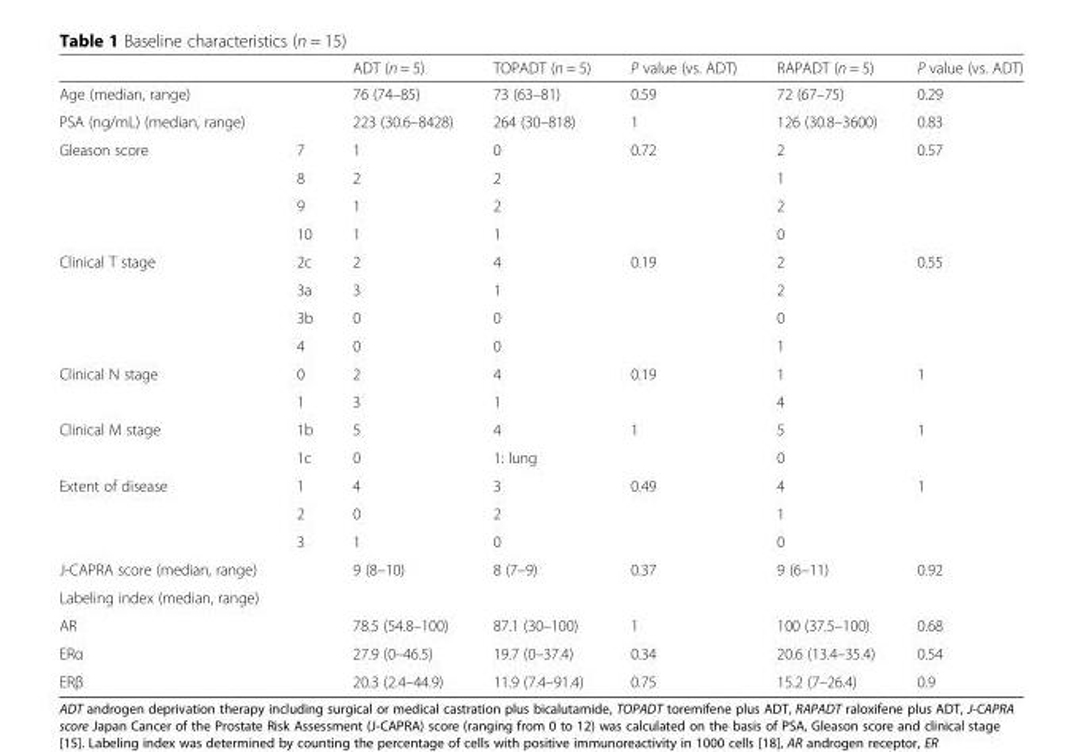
<table><thead><tr><td></td><td></td><td>ADT (n = 5)</td><td>TOPADT (n = 5)</td><td>P value (vs. ADT)</td><td>RAPADT (n = 5)</td><td>P value (vs. ADT)</td></tr></thead><tbody><tr><td>Age (median, range)</td><td></td><td>76 (74–85)</td><td>73 (63–81)</td><td>0.59</td><td>72 (67–75)</td><td>0.29</td></tr><tr><td>PSA (ng/mL) (median, range)</td><td></td><td>223 (30.6–8428)</td><td>264 (30–818)</td><td>1</td><td>126 (30.8–3600)</td><td>0.83</td></tr><tr><td rowspan="4">Gleason score</td><td>7</td><td>1</td><td>0</td><td rowspan="4">0.72</td><td>2</td><td rowspan="4">0.57</td></tr><tr><td>8</td><td>2</td><td>2</td><td>1</td></tr><tr><td>9</td><td>1</td><td>2</td><td>2</td></tr><tr><td>10</td><td>1</td><td>1</td><td>0</td></tr><tr><td rowspan="4">Clinical T stage</td><td>2c</td><td>2</td><td>4</td><td rowspan="4">0.19</td><td>2</td><td rowspan="4">0.55</td></tr><tr><td>3a</td><td>3</td><td>1</td><td>2</td></tr><tr><td>3b</td><td>0</td><td>0</td><td>0</td></tr><tr><td>4</td><td>0</td><td>0</td><td>1</td></tr><tr><td rowspan="2">Clinical N stage</td><td>0</td><td>2</td><td>4</td><td rowspan="2">0.19</td><td>1</td><td>1</td></tr><tr><td>1</td><td>3</td><td>1</td><td>4</td><td></td></tr><tr><td rowspan="2">Clinical M stage</td><td>1b</td><td>5</td><td>4</td><td>1</td><td>5</td><td>1</td></tr><tr><td>1c</td><td>0</td><td>1: lung</td><td></td><td>0</td><td></td></tr><tr><td rowspan="3">Extent of disease</td><td>1</td><td>4</td><td>3</td><td rowspan="3">0.49</td><td>4</td><td rowspan="3">1</td></tr><tr><td>2</td><td>0</td><td>2</td><td>1</td></tr><tr><td>3</td><td>1</td><td>0</td><td>0</td></tr><tr><td>J-CAPRA score (median, range)</td><td></td><td>9 (8–10)</td><td>8 (7–9)</td><td>0.37</td><td>9 (6–11)</td><td>0.92</td></tr><tr><td colspan="7">Labeling index (median, range)</td></tr><tr><td>AR</td><td></td><td>78.5 (54.8–100)</td><td>87.1 (30–100)</td><td>1</td><td>100 (37.5–100)</td><td>0.68</td></tr><tr><td>ERα</td><td></td><td>27.9 (0–46.5)</td><td>19.7 (0–37.4)</td><td>0.34</td><td>20.6 (13.4–35.4)</td><td>0.54</td></tr><tr><td>ERβ</td><td></td><td>20.3 (2.4–44.9)</td><td>11.9 (7.4–91.4)</td><td>0.75</td><td>15.2 (7–26.4)</td><td>0.9</td></tr></tbody></table>